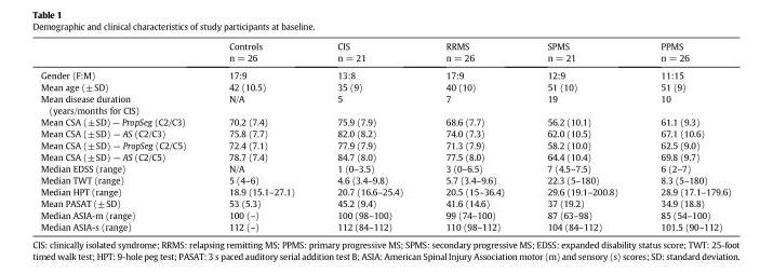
<table><thead><tr><td></td><td>Controls n = 26</td><td>CIS n = 21</td><td>RRMS n = 26</td><td>SPMS n = 21</td><td>PPMS n = 26</td></tr></thead><tbody><tr><td>Gender (F:M)</td><td>17:9</td><td>13:8</td><td>17:9</td><td>12:9</td><td>11:15</td></tr><tr><td>Mean age (±SD)</td><td>42 (10.5)</td><td>35 (9)</td><td>40 (10)</td><td>51 (10)</td><td>51 (9)</td></tr><tr><td>Mean disease duration (years/months for CIS)</td><td>N/A</td><td>5</td><td>7</td><td>19</td><td>10</td></tr><tr><td>Mean CSA (±SD) — PropSeg (C2/C3)</td><td>70.2 (7.4)</td><td>75.9 (7.9)</td><td>68.6 (7.7)</td><td>56.2 (10.1)</td><td>61.1 (9.3)</td></tr><tr><td>Mean CSA (±SD) — AS (C2/C3)</td><td>75.8 (7.7)</td><td>82.0 (8.2)</td><td>74.0 (7.3)</td><td>62.0 (10.5)</td><td>67.1 (10.6)</td></tr><tr><td>Mean CSA (±SD) — PropSeg (C2/C5)</td><td>72.4 (7.1)</td><td>77.9 (7.9)</td><td>71.3 (7.9)</td><td>58.2 (10.0)</td><td>62.5 (9.0)</td></tr><tr><td>Mean CSA (±SD) — AS (C2/C5)</td><td>78.7 (7.4)</td><td>84.7 (8.0)</td><td>77.5 (8.0)</td><td>64.4 (10.4)</td><td>69.8 (9.7)</td></tr><tr><td>Median EDSS (range)</td><td>N/A</td><td>1 (0–3.5)</td><td>3 (0–6.5)</td><td>7 (4.5–7.5)</td><td>6 (2–7)</td></tr><tr><td>Median TWT (range)</td><td>5 (4–6)</td><td>4.6 (3.4–9.8)</td><td>5.7 (3.4–9.6)</td><td>22.3 (5–180)</td><td>8.3 (5–180)</td></tr><tr><td>Median HPT (range)</td><td>18.9 (15.1–27.1)</td><td>20.7 (16.6–25.4)</td><td>20.5 (15–36.4)</td><td>29.6 (19.1–200.8)</td><td>28.9 (17.1–179.6)</td></tr><tr><td>Mean PASAT (±SD)</td><td>53 (5.3)</td><td>45.2 (9.4)</td><td>41.6 (14.6)</td><td>37 (19.2)</td><td>34.9 (18.8)</td></tr><tr><td>Median ASIA-m (range)</td><td>100 (–)</td><td>100 (98–100)</td><td>99 (74–100)</td><td>87 (63–98)</td><td>85 (54–100)</td></tr><tr><td>Median ASIA-s (range)</td><td>112 (–)</td><td>112 (84–112)</td><td>110 (98–112)</td><td>104 (84–112)</td><td>101.5 (90–112)</td></tr></tbody></table>